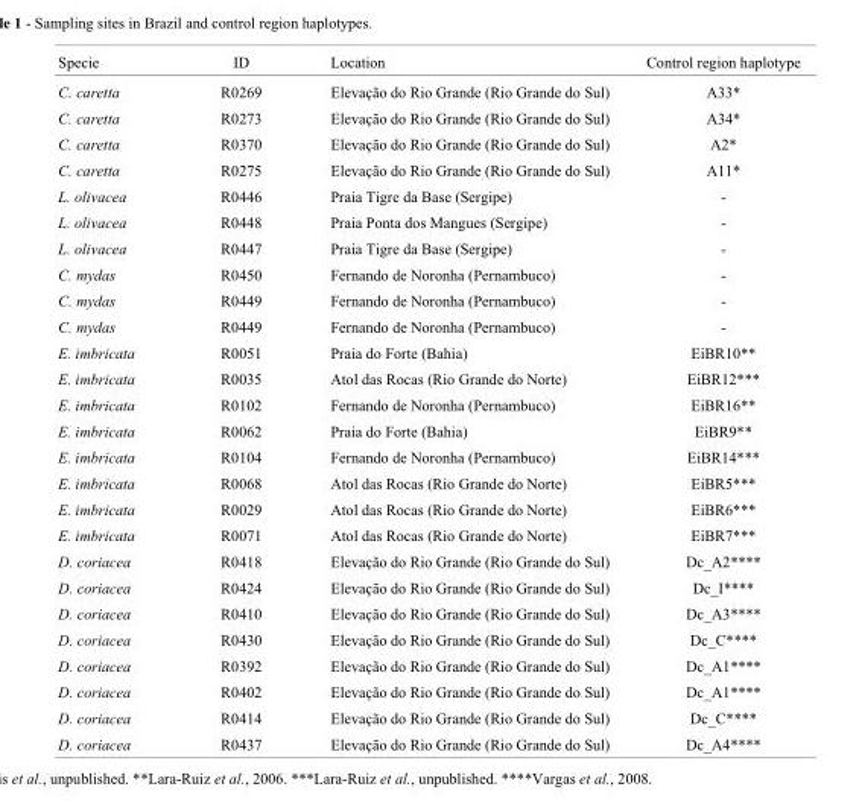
<table><thead><tr><td>Specie</td><td>ID</td><td>Location</td><td>Control region haplotype</td></tr></thead><tbody><tr><td>C. caretta</td><td>R0269</td><td>Elevação do Rio Grande (Rio Grande do Sul)</td><td>A33*</td></tr><tr><td>C. caretta</td><td>R0273</td><td>Elevação do Rio Grande (Rio Grande do Sul)</td><td>A34*</td></tr><tr><td>C. caretta</td><td>R0370</td><td>Elevação do Rio Grande (Rio Grande do Sul)</td><td>A2*</td></tr><tr><td>C. caretta</td><td>R0275</td><td>Elevação do Rio Grande (Rio Grande do Sul)</td><td>A11*</td></tr><tr><td>L. olivacea</td><td>R0446</td><td>Praia Tigre da Base (Sergipe)</td><td>-</td></tr><tr><td>L. olivacea</td><td>R0448</td><td>Praia Ponta dos Mangues (Sergipe)</td><td>-</td></tr><tr><td>L. olivacea</td><td>R0447</td><td>Praia Tigre da Base (Sergipe)</td><td>-</td></tr><tr><td>C. mydas</td><td>R0450</td><td>Fernando de Noronha (Pernambuco)</td><td>-</td></tr><tr><td>C. mydas</td><td>R0449</td><td>Fernando de Noronha (Pernambuco)</td><td>-</td></tr><tr><td>C. mydas</td><td>R0449</td><td>Fernando de Noronha (Pernambuco)</td><td>-</td></tr><tr><td>E. imbricata</td><td>R0051</td><td>Praia do Forte (Bahia)</td><td>EiBR10**</td></tr><tr><td>E. imbricata</td><td>R0035</td><td>Atol das Rocas (Rio Grande do Norte)</td><td>EiBR12***</td></tr><tr><td>E. imbricata</td><td>R0102</td><td>Fernando de Noronha (Pernambuco)</td><td>EiBR16**</td></tr><tr><td>E. imbricata</td><td>R0062</td><td>Praia do Forte (Bahia)</td><td>EiBR9**</td></tr><tr><td>E. imbricata</td><td>R0104</td><td>Fernando de Noronha (Pernambuco)</td><td>EiBR14***</td></tr><tr><td>E. imbricata</td><td>R0068</td><td>Atol das Rocas (Rio Grande do Norte)</td><td>EiBR5***</td></tr><tr><td>E. imbricata</td><td>R0029</td><td>Atol das Rocas (Rio Grande do Norte)</td><td>EiBR6***</td></tr><tr><td>E. imbricata</td><td>R0071</td><td>Atol das Rocas (Rio Grande do Norte)</td><td>EiBR7***</td></tr><tr><td>D. coriacea</td><td>R0418</td><td>Elevação do Rio Grande (Rio Grande do Sul)</td><td>Dc_A2****</td></tr><tr><td>D. coriacea</td><td>R0424</td><td>Elevação do Rio Grande (Rio Grande do Sul)</td><td>Dc_I****</td></tr><tr><td>D. coriacea</td><td>R0410</td><td>Elevação do Rio Grande (Rio Grande do Sul)</td><td>Dc_A3****</td></tr><tr><td>D. coriacea</td><td>R0430</td><td>Elevação do Rio Grande (Rio Grande do Sul)</td><td>Dc_C****</td></tr><tr><td>D. coriacea</td><td>R0392</td><td>Elevação do Rio Grande (Rio Grande do Sul)</td><td>Dc_A1****</td></tr><tr><td>D. coriacea</td><td>R0402</td><td>Elevação do Rio Grande (Rio Grande do Sul)</td><td>Dc_A1****</td></tr><tr><td>D. coriacea</td><td>R0414</td><td>Elevação do Rio Grande (Rio Grande do Sul)</td><td>Dc_C****</td></tr><tr><td>D. coriacea</td><td>R0437</td><td>Elevação do Rio Grande (Rio Grande do Sul)</td><td>Dc_A4****</td></tr></tbody></table>